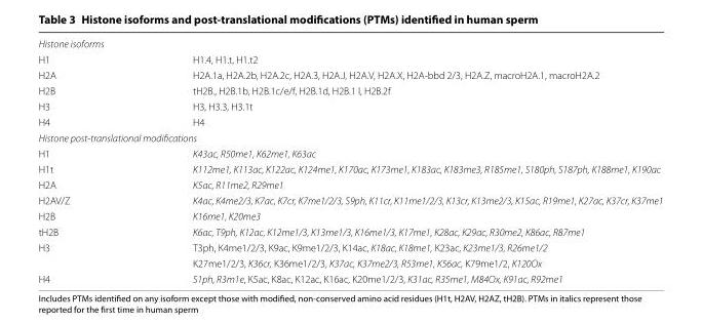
<table><tbody><tr><td colspan="2">Histone isoforms</td></tr><tr><td>H1</td><td>H1.4, H1.t, H1.t2</td></tr><tr><td>H2A</td><td>H2A.1a, H2A.2b, H2A.2c, H2A.3, H2A.J, H2A.V, H2A.X, H2A-bbd 2/3, H2A.Z, macroH2A.1, macroH2A.2</td></tr><tr><td>H2B</td><td>tH2B., H2B.1b, H2B.1c/e/f, H2B.1d, H2B.1 l, H2B.2f</td></tr><tr><td>H3</td><td>H3, H3.3, H3.1t</td></tr><tr><td>H4</td><td>H4</td></tr><tr><td colspan="2">Histone post-translational modifications</td></tr><tr><td>H1</td><td>K43ac, R50me1, K62me1, K63ac</td></tr><tr><td>H1t</td><td>K112me1, K113ac, K122ac, K124me1, K170ac, K173me1, K183ac, K183me3, R185me1, S180ph, S187ph, K188me1, K190ac</td></tr><tr><td>H2A</td><td>K5ac, R11me2, R29me1</td></tr><tr><td>H2AV/Z</td><td>K4ac, K4me2/3, K7ac, K7cr, K7me1/2/3, S9ph, K11cr, K11me1/2/3, K13cr, K13me2/3, K15ac, R19me1, K27ac, K37cr, K37me1</td></tr><tr><td>H2B</td><td>K16me1, K20me3</td></tr><tr><td>tH2B</td><td>K6ac, T9ph, K12ac, K12me1/3, K13me1/3, K16me1/3, K17me1, K28ac, K29ac, R30me2, K86ac, R87me1</td></tr><tr><td rowspan="2">H3</td><td>T3ph, K4me1/2/3, K9ac, K9me1/2/3, K14ac, K18ac, K18me1, K23ac, K23me1/3, R26me1/2</td></tr><tr><td>K27me1/2/3, K36cr, K36me1/2/3, K37ac, K37me2/3, R53me1, K56ac, K79me1/2, K120Ox</td></tr><tr><td>H4</td><td>S1ph, R3m1e, K5ac, K8ac, K12ac, K16ac, K20me1/2/3, K31ac, R35me1, M84Ox, K91ac, R92me1</td></tr></tbody></table>